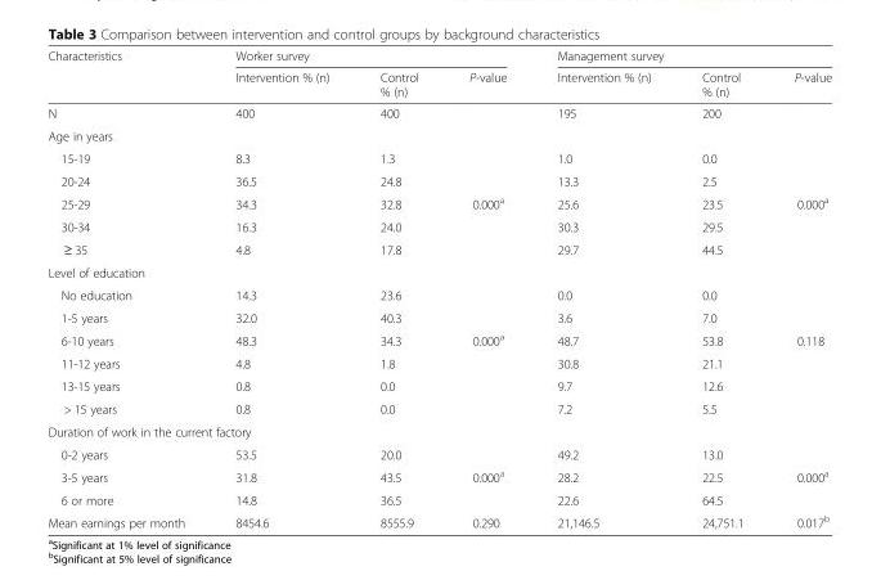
<table><thead><tr><td rowspan="2">Characteristics</td><td colspan="3">Worker survey</td><td colspan="3">Management survey</td></tr><tr><td>Intervention % (n)</td><td>Control % (n)</td><td>P-value</td><td>Intervention % (n)</td><td>Control % (n)</td><td>P-value</td></tr></thead><tbody><tr><td>N</td><td>400</td><td>400</td><td></td><td>195</td><td>200</td><td></td></tr><tr><td colspan="7">Age in years</td></tr><tr><td>15-19</td><td>8.3</td><td>1.3</td><td></td><td>1.0</td><td>0.0</td><td></td></tr><tr><td>20-24</td><td>36.5</td><td>24.8</td><td></td><td>13.3</td><td>2.5</td><td></td></tr><tr><td>25-29</td><td>34.3</td><td>32.8</td><td>0.000<sup>a</sup></td><td>25.6</td><td>23.5</td><td>0.000<sup>a</sup></td></tr><tr><td>30-34</td><td>16.3</td><td>24.0</td><td></td><td>30.3</td><td>29.5</td><td></td></tr><tr><td>≥ 35</td><td>4.8</td><td>17.8</td><td></td><td>29.7</td><td>44.5</td><td></td></tr><tr><td colspan="7">Level of education</td></tr><tr><td>No education</td><td>14.3</td><td>23.6</td><td></td><td>0.0</td><td>0.0</td><td></td></tr><tr><td>1-5 years</td><td>32.0</td><td>40.3</td><td></td><td>3.6</td><td>7.0</td><td></td></tr><tr><td>6-10 years</td><td>48.3</td><td>34.3</td><td>0.000<sup>a</sup></td><td>48.7</td><td>53.8</td><td>0.118</td></tr><tr><td>11-12 years</td><td>4.8</td><td>1.8</td><td></td><td>30.8</td><td>21.1</td><td></td></tr><tr><td>13-15 years</td><td>0.8</td><td>0.0</td><td></td><td>9.7</td><td>12.6</td><td></td></tr><tr><td>&gt; 15 years</td><td>0.8</td><td>0.0</td><td></td><td>7.2</td><td>5.5</td><td></td></tr><tr><td colspan="7">Duration of work in the current factory</td></tr><tr><td>0-2 years</td><td>53.5</td><td>20.0</td><td></td><td>49.2</td><td>13.0</td><td></td></tr><tr><td>3-5 years</td><td>31.8</td><td>43.5</td><td>0.000<sup>a</sup></td><td>28.2</td><td>22.5</td><td>0.000<sup>a</sup></td></tr><tr><td>6 or more</td><td>14.8</td><td>36.5</td><td></td><td>22.6</td><td>64.5</td><td></td></tr><tr><td>Mean earnings per month</td><td>8454.6</td><td>8555.9</td><td>0.290</td><td>21,146.5</td><td>24,751.1</td><td>0.017<sup>b</sup></td></tr></tbody></table>